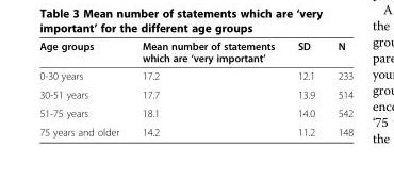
<table><thead><tr><td>Age groups</td><td>Mean number of statements which are ‘very important’</td><td>SD</td><td>N</td></tr></thead><tbody><tr><td>0-30 years</td><td>17.2</td><td>12.1</td><td>233</td></tr><tr><td>30-51 years</td><td>17.7</td><td>13.9</td><td>514</td></tr><tr><td>51-75 years</td><td>18.1</td><td>14.0</td><td>542</td></tr><tr><td>75 years and older</td><td>14.2</td><td>11.2</td><td>148</td></tr></tbody></table>